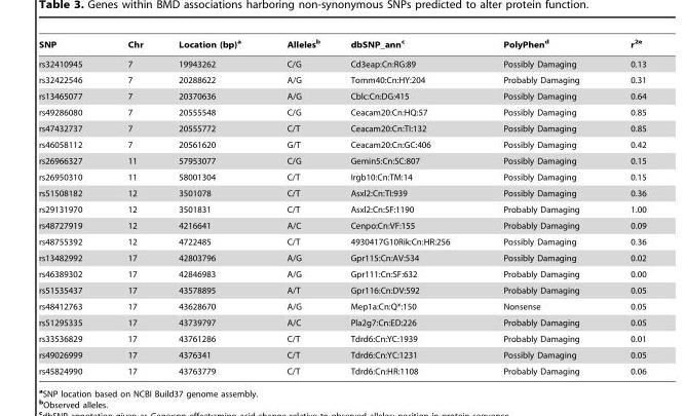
<table><thead><tr><td>SNP</td><td>Chr</td><td>Location (bp)<sup>a</sup></td><td>Alleles<sup>b</sup></td><td>dbSNP_ann<sup>c</sup></td><td>PolyPhen<sup>d</sup></td><td>r<sup>2</sup>e</td></tr></thead><tbody><tr><td>rs32410945</td><td>7</td><td>19943262</td><td>C/G</td><td>Cd3eap:Cn:RG:89</td><td>Possibly Damaging</td><td>0.13</td></tr><tr><td>rs32422546</td><td>7</td><td>20288622</td><td>A/G</td><td>Tomm40:Cn:HY:204</td><td>Probably Damaging</td><td>0.31</td></tr><tr><td>rs13465077</td><td>7</td><td>20370636</td><td>A/G</td><td>Cblc:Cn:DG:415</td><td>Possibly Damaging</td><td>0.64</td></tr><tr><td>rs49286080</td><td>7</td><td>20555548</td><td>C/G</td><td>Ceacam20:Cn:HQ:57</td><td>Possibly Damaging</td><td>0.85</td></tr><tr><td>rs47432737</td><td>7</td><td>20555772</td><td>C/T</td><td>Ceacam20:Cn:TI:132</td><td>Possibly Damaging</td><td>0.85</td></tr><tr><td>rs46058112</td><td>7</td><td>20561620</td><td>G/T</td><td>Ceacam20:Cn:GC:406</td><td>Possibly Damaging</td><td>0.42</td></tr><tr><td>rs26966327</td><td>11</td><td>57953077</td><td>C/G</td><td>Gemin5:Cn:SC:807</td><td>Possibly Damaging</td><td>0.15</td></tr><tr><td>rs26950310</td><td>11</td><td>58001304</td><td>C/T</td><td>Irgb10:Cn:TM:14</td><td>Possibly Damaging</td><td>0.15</td></tr><tr><td>rs51508182</td><td>12</td><td>3501078</td><td>C/T</td><td>Asxl2:Cn:TI:939</td><td>Possibly Damaging</td><td>0.36</td></tr><tr><td>rs29131970</td><td>12</td><td>3501831</td><td>C/T</td><td>Asxl2:Cn:SF:1190</td><td>Probably Damaging</td><td>1.00</td></tr><tr><td>rs48727919</td><td>12</td><td>4216641</td><td>A/C</td><td>Cenpo:Cn:VF:155</td><td>Probably Damaging</td><td>0.09</td></tr><tr><td>rs48755392</td><td>12</td><td>4722485</td><td>C/T</td><td>4930417G10Rik:Cn:HR:256</td><td>Possibly Damaging</td><td>0.36</td></tr><tr><td>rs13482992</td><td>17</td><td>42803796</td><td>A/G</td><td>Gpr115:Cn:AV:534</td><td>Possibly Damaging</td><td>0.02</td></tr><tr><td>rs46389302</td><td>17</td><td>42846983</td><td>A/G</td><td>Gpr111:Cn:SF:632</td><td>Probably Damaging</td><td>0.00</td></tr><tr><td>rs51535437</td><td>17</td><td>43578895</td><td>A/T</td><td>Gpr116:Cn:DV:592</td><td>Probably Damaging</td><td>0.05</td></tr><tr><td>rs48412763</td><td>17</td><td>43628670</td><td>A/G</td><td>Mep1a:Cn:Q*:150</td><td>Nonsense</td><td>0.05</td></tr><tr><td>rs51295335</td><td>17</td><td>43739797</td><td>A/C</td><td>Pla2g7:Cn:ED:226</td><td>Probably Damaging</td><td>0.05</td></tr><tr><td>rs33536829</td><td>17</td><td>43761286</td><td>C/T</td><td>Tdrd6:Cn:YC:1939</td><td>Probably Damaging</td><td>0.01</td></tr><tr><td>rs49026999</td><td>17</td><td>4376341</td><td>C/T</td><td>Tdrd6:Cn:YC:1231</td><td>Possibly Damaging</td><td>0.05</td></tr><tr><td>rs45824990</td><td>17</td><td>43763779</td><td>C/T</td><td>Tdrd6:Cn:HR:1108</td><td>Probably Damaging</td><td>0.06</td></tr></tbody></table>